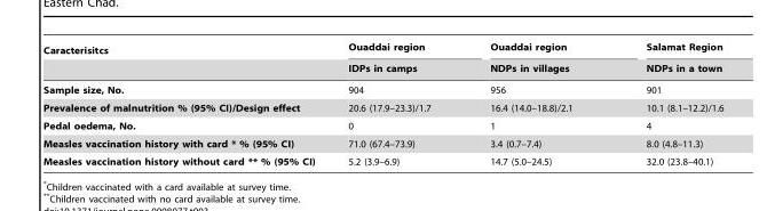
<table><thead><tr><td rowspan="2">Caracterisitcs</td><td rowspan="2">Ouaddai region IDPs in camps</td><td rowspan="2">Ouaddai region NDPs in villages</td><td rowspan="2">Salamat Region NDPs in a town</td></tr><tr></tr></thead><tbody><tr><td>Sample size, No.</td><td>904</td><td>956</td><td>901</td></tr><tr><td>Prevalence of malnutrition % (95% CI)/Design effect</td><td>20.6 (17.9–23.3)/1.7</td><td>16.4 (14.0–18.8)/2.1</td><td>10.1 (8.1–12.2)/1.6</td></tr><tr><td>Pedal oedema, No.</td><td>0</td><td>1</td><td>4</td></tr><tr><td>Measles vaccination history with card * % (95% CI)</td><td>71.0 (67.4–73.9)</td><td>3.4 (0.7–7.4)</td><td>8.0 (4.8–11.3)</td></tr><tr><td>Measles vaccination history without card ** % (95% CI)</td><td>5.2 (3.9–6.9)</td><td>14.7 (5.0–24.5)</td><td>32.0 (23.8–40.1)</td></tr></tbody></table>